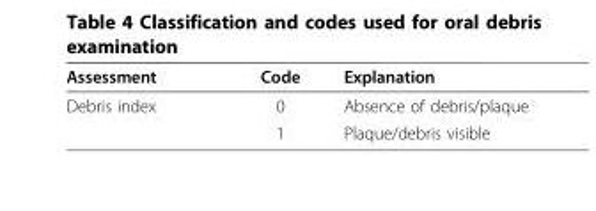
<table><thead><tr><td>Assessment</td><td>Code</td><td>Explanation</td></tr></thead><tbody><tr><td rowspan="2">Debris index</td><td>0</td><td>Absence of debris/plaque</td></tr><tr><td>1</td><td>Plaque/debris visible</td></tr></tbody></table>